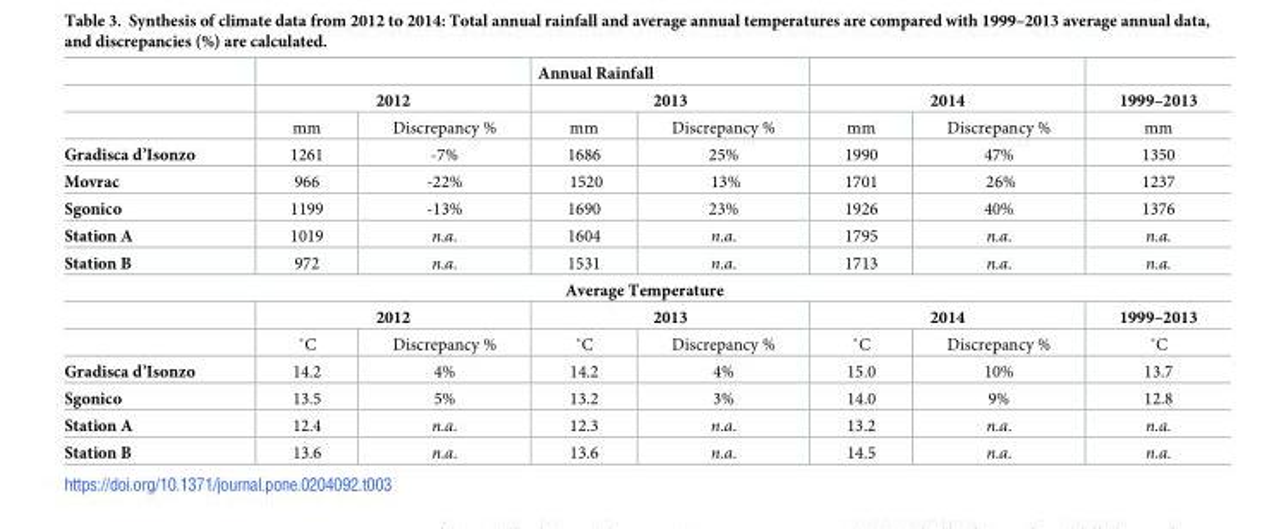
<table><thead><tr><td rowspan="3"></td><td></td><td></td><td rowspan="2" colspan="2">Annual Rainfall 2013</td><td></td><td></td><td rowspan="3">1999–2013 mm</td></tr><tr><td colspan="2">2012</td><td colspan="2">2014</td></tr><tr><td>mm</td><td>Discrepancy %</td><td>mm</td><td>Discrepancy %</td><td>mm</td><td>Discrepancy %</td></tr></thead><tbody><tr><td>Gradisca d’Isonzo</td><td>1261</td><td>-7%</td><td>1686</td><td>25%</td><td>1990</td><td>47%</td><td>1350</td></tr><tr><td>Movrac</td><td>966</td><td>-22%</td><td>1520</td><td>13%</td><td>1701</td><td>26%</td><td>1237</td></tr><tr><td>Sgonico</td><td>1199</td><td>-13%</td><td>1690</td><td>23%</td><td>1926</td><td>40%</td><td>1376</td></tr><tr><td>Station A</td><td>1019</td><td>n.a.</td><td>1604</td><td>n.a.</td><td>1795</td><td>n.a.</td><td>n.a.</td></tr><tr><td>Station B</td><td>972</td><td>n.a.</td><td>1531</td><td>n.a.</td><td>1713</td><td>n.a.</td><td>n.a.</td></tr><tr><td colspan="8">Average Temperature</td></tr><tr><td></td><td colspan="2">2012</td><td colspan="2">2013</td><td colspan="2">2014</td><td>1999–2013</td></tr><tr><td></td><td>˚C</td><td>Discrepancy %</td><td>˚C</td><td>Discrepancy %</td><td>˚C</td><td>Discrepancy %</td><td>˚C</td></tr><tr><td>Gradisca d’Isonzo</td><td>14.2</td><td>4%</td><td>14.2</td><td>4%</td><td>15.0</td><td>10%</td><td>13.7</td></tr><tr><td>Sgonico</td><td>13.5</td><td>5%</td><td>13.2</td><td>3%</td><td>14.0</td><td>9%</td><td>12.8</td></tr><tr><td>Station A</td><td>12.4</td><td>n.a.</td><td>12.3</td><td>n.a.</td><td>13.2</td><td>n.a.</td><td>n.a.</td></tr><tr><td>Station B</td><td>13.6</td><td>n.a.</td><td>13.6</td><td>n.a.</td><td>14.5</td><td>n.a.</td><td>n.a.</td></tr></tbody></table>